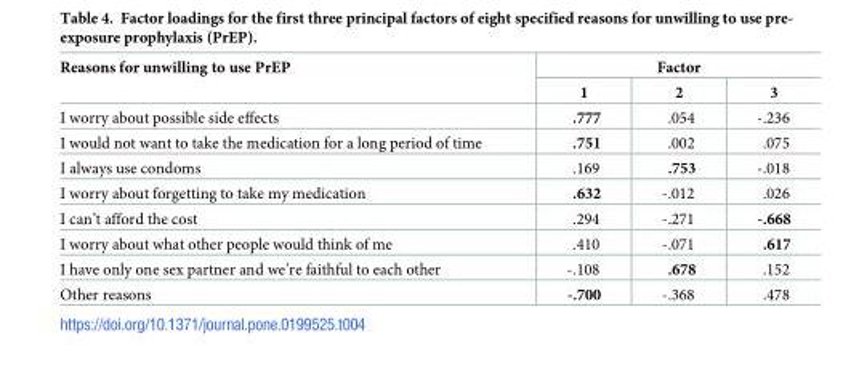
<table><thead><tr><td rowspan="2">Reasons for unwilling to use PrEP</td><td colspan="3">Factor</td></tr><tr><td>1</td><td>2</td><td>3</td></tr></thead><tbody><tr><td>I worry about possible side effects</td><td>.777</td><td>.054</td><td>-.236</td></tr><tr><td>I would not want to take the medication for a long period of time</td><td>.751</td><td>.002</td><td>.075</td></tr><tr><td>I always use condoms</td><td>.169</td><td>.753</td><td>-.018</td></tr><tr><td>I worry about forgetting to take my medication</td><td>.632</td><td>-.012</td><td>.026</td></tr><tr><td>I can’t afford the cost</td><td>.294</td><td>-.271</td><td>-.668</td></tr><tr><td>I worry about what other people would think of me</td><td>.410</td><td>-.071</td><td>.617</td></tr><tr><td>I have only one sex partner and we’re faithful to each other</td><td>-.108</td><td>.678</td><td>.152</td></tr><tr><td>Other reasons</td><td>-.700</td><td>-.368</td><td>.478</td></tr></tbody></table>